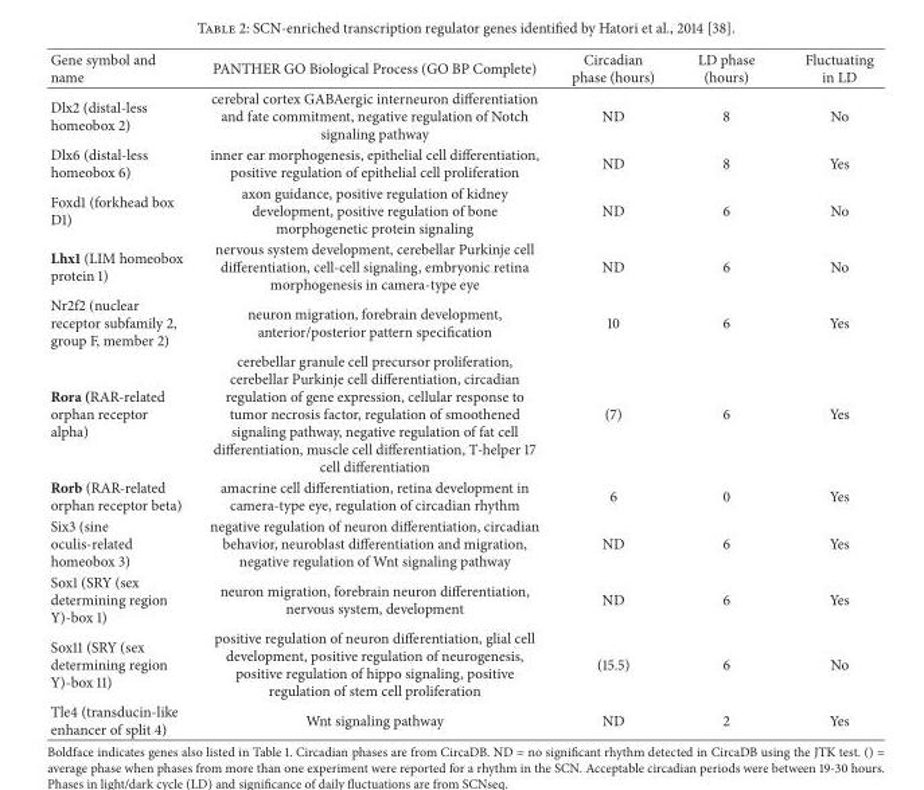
<table><thead><tr><td>Gene symbol and name</td><td>PANTHER GO Biological Process (GO BP Complete)</td><td>Circadian phase (hours)</td><td>LD phase (hours)</td><td>Fluctuating in LD</td></tr></thead><tbody><tr><td>Dlx2 (distal-less homeobox 2)</td><td>cerebral cortex GABAergic interneuron differentiation and fate commitment, negative regulation of Notch signaling pathway</td><td>ND</td><td>8</td><td>No</td></tr><tr><td>Dlx6 (distal-less homeobox 6)</td><td>inner ear morphogenesis, epithelial cell differentiation, positive regulation of epithelial cell proliferation</td><td>ND</td><td>8</td><td>Yes</td></tr><tr><td>Foxd1 (forkhead box D1)</td><td>axon guidance, positive regulation of kidney development, positive regulation of bone morphogenetic protein signaling</td><td>ND</td><td>6</td><td>No</td></tr><tr><td>Lhx1 (LIM homeobox protein 1)</td><td>nervous system development, cerebellar Purkinje cell differentiation, cell-cell signaling, embryonic retina morphogenesis in camera-type eye</td><td>ND</td><td>6</td><td>No</td></tr><tr><td>Nr2f2 (nuclear receptor subfamily 2, group F, member 2)</td><td>neuron migration, forebrain development, anterior/posterior pattern specification</td><td>10</td><td>6</td><td>Yes</td></tr><tr><td>Rora (RAR-related orphan receptor alpha)</td><td>cerebellar granule cell precursor proliferation, cerebellar Purkinje cell differentiation, circadian regulation of gene expression, cellular response to tumor necrosis factor, regulation of smoothened signaling pathway, negative regulation of fat cell differentiation, muscle cell differentiation, T-helper 17 cell differentiation</td><td>(7)</td><td>6</td><td>Yes</td></tr><tr><td>Rorb (RAR-related orphan receptor beta)</td><td>amacrine cell differentiation, retina development in camera-type eye, regulation of circadian rhythm</td><td>6</td><td>0</td><td>Yes</td></tr><tr><td>Six3 (sine oculis-related homeobox 3)</td><td>negative regulation of neuron differentiation, circadian behavior, neuroblast differentiation and migration, negative regulation of Wnt signaling pathway</td><td>ND</td><td>6</td><td>Yes</td></tr><tr><td>Sox1 (SRY (sex determining region Y)-box 1)</td><td>neuron migration, forebrain neuron differentiation, nervous system, development</td><td>ND</td><td>6</td><td>Yes</td></tr><tr><td>Sox11 (SRY (sex determining region Y)-box 11)</td><td>positive regulation of neuron differentiation, glial cell development, positive regulation of neurogenesis, positive regulation of hippo signaling, positive regulation of stem cell proliferation</td><td>(15.5)</td><td>6</td><td>No</td></tr><tr><td>Tle4 (transducin-like enhancer of split 4)</td><td>Wnt signaling pathway</td><td>ND</td><td>2</td><td>Yes</td></tr></tbody></table>